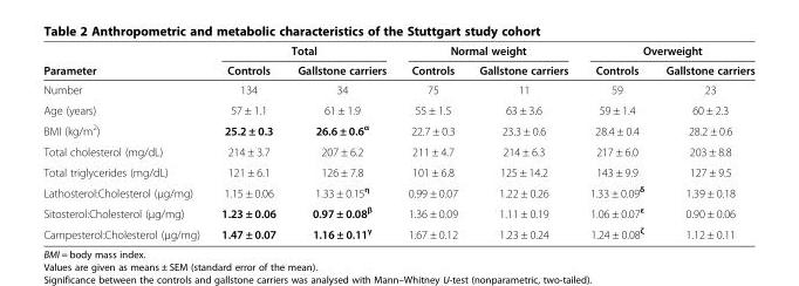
<table><thead><tr><td rowspan="2">Parameter</td><td colspan="2">Total</td><td colspan="2">Normal weight</td><td colspan="2">Overweight</td></tr><tr><td>Controls</td><td>Gallstone carriers</td><td>Controls</td><td>Gallstone carriers</td><td>Controls</td><td>Gallstone carriers</td></tr></thead><tbody><tr><td>Number</td><td>134</td><td>34</td><td>75</td><td>11</td><td>59</td><td>23</td></tr><tr><td>Age (years)</td><td>57 ± 1.1</td><td>61 ± 1.9</td><td>55 ± 1.5</td><td>63 ± 3.6</td><td>59 ± 1.4</td><td>60 ± 2.3</td></tr><tr><td>BMI (kg/m<sup>2</sup>)</td><td>25.2 ± 0.3</td><td>26.6 ± 0.6<sup>α</sup></td><td>22.7 ± 0.3</td><td>23.3 ± 0.6</td><td>28.4 ± 0.4</td><td>28.2 ± 0.6</td></tr><tr><td>Total cholesterol (mg/dL)</td><td>214 ± 3.7</td><td>207 ± 6.2</td><td>211 ± 4.7</td><td>214 ± 6.3</td><td>217 ± 6.0</td><td>203 ± 8.8</td></tr><tr><td>Total triglycerides (mg/dL)</td><td>121 ± 6.1</td><td>126 ± 7.8</td><td>101 ± 6.8</td><td>125 ± 14.2</td><td>143 ± 9.9</td><td>127 ± 9.5</td></tr><tr><td>Lathosterol:Cholesterol (μg/mg)</td><td>1.15 ± 0.06</td><td>1.33 ± 0.15<sup>η</sup></td><td>0.99 ± 0.07</td><td>1.22 ± 0.26</td><td>1.33 ± 0.09<sup>δ</sup></td><td>1.39 ± 0.18</td></tr><tr><td>Sitosterol:Cholesterol (μg/mg)</td><td>1.23 ± 0.06</td><td>0.97 ± 0.08<sup>β</sup></td><td>1.36 ± 0.09</td><td>1.11 ± 0.19</td><td>1.06 ± 0.07<sup>ε</sup></td><td>0.90 ± 0.06</td></tr><tr><td>Campesterol:Cholesterol (μg/mg)</td><td>1.47 ± 0.07</td><td>1.16 ± 0.11<sup>γ</sup></td><td>1.67 ± 0.12</td><td>1.23 ± 0.24</td><td>1.24 ± 0.08<sup>ζ</sup></td><td>1.12 ± 0.11</td></tr></tbody></table>